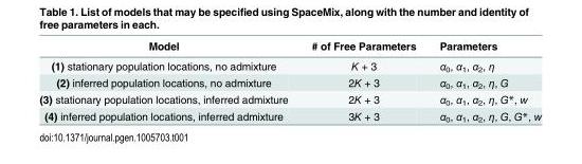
<table><thead><tr><td>Model</td><td># of Free Parameters</td><td>Parameters</td></tr></thead><tbody><tr><td>(1) stationary population locations, no admixture</td><td>K + 3</td><td>α<sub>0</sub>, α<sub>1</sub>, α<sub>2</sub>, η</td></tr><tr><td>(2) inferred population locations, no admixture</td><td>2K + 3</td><td>α<sub>0</sub>, α<sub>1</sub>, α<sub>2</sub>, η, G</td></tr><tr><td>(3) stationary population locations, inferred admixture</td><td>2K + 3</td><td>α<sub>0</sub>, α<sub>1</sub>, α<sub>2</sub>, η, G*, w</td></tr><tr><td>(4) inferred population locations, inferred admixture</td><td>3K + 3</td><td>α<sub>0</sub>, α<sub>1</sub>, α<sub>2</sub>, η, G, G*, w</td></tr></tbody></table>